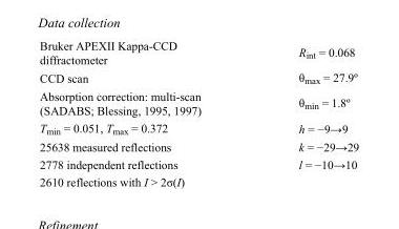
<table><tbody><tr><td>Bruker APEXII Kappa-CCD diffractometer</td><td>R<sub>int</sub> = 0.068</td></tr><tr><td>CCD scan</td><td>θ<sub>max</sub> = 27.9º</td></tr><tr><td>Absorption correction: multi-scan (SADABS; Blessing, 1995, 1997)</td><td>θ<sub>min</sub> = 1.8º</td></tr><tr><td>T<sub>min</sub> = 0.051, T<sub>max</sub> = 0.372</td><td>h = −9→9</td></tr><tr><td>25638 measured reflections</td><td>k = −29→29</td></tr><tr><td>2778 independent reflections</td><td>l = −10→10</td></tr><tr><td>2610 reflections with I &gt; 2σ(I)</td><td></td></tr></tbody></table>